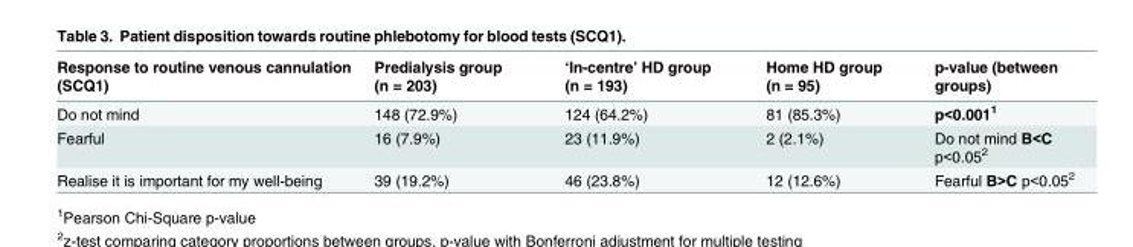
<table><thead><tr><td>Response to routine venous cannulation (SCQ1)</td><td>Predialysis group (n = 203)</td><td>‘In-centre’ HD group (n = 193)</td><td>Home HD group (n = 95)</td><td>p-value (between groups)</td></tr></thead><tbody><tr><td>Do not mind</td><td>148 (72.9%)</td><td>124 (64.2%)</td><td>81 (85.3%)</td><td>p&lt;0.001<sup>1</sup></td></tr><tr><td>Fearful</td><td>16 (7.9%)</td><td>23 (11.9%)</td><td>2 (2.1%)</td><td>Do not mind B&lt;C p&lt;0.05<sup>2</sup></td></tr><tr><td>Realise it is important for my well-being</td><td>39 (19.2%)</td><td>46 (23.8%)</td><td>12 (12.6%)</td><td>Fearful B&gt;C p&lt;0.05<sup>2</sup></td></tr></tbody></table>